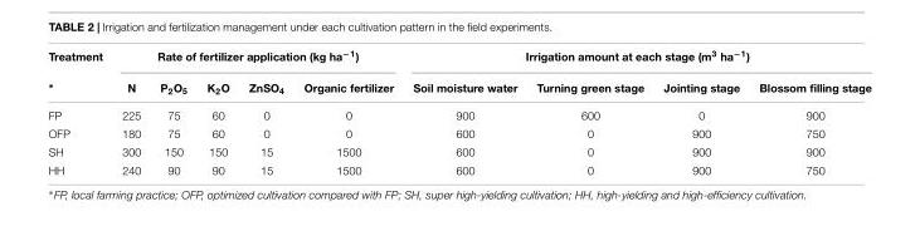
<table><thead><tr><td rowspan="2">Treatment ∗</td><td colspan="5">Rate of fertilizer application (kg ha<sup>−1</sup>)</td><td colspan="4">Irrigation amount at each stage (m<sup>3</sup> ha<sup>−1</sup>)</td></tr><tr><td>N</td><td>P<sub>2</sub>O<sub>5</sub></td><td>K<sub>2</sub>O</td><td>ZnSO<sub>4</sub></td><td>Organic fertilizer</td><td>Soil moisture water</td><td>Turning green stage</td><td>Jointing stage</td><td>Blossom filling stage</td></tr></thead><tbody><tr><td>FP</td><td>225</td><td>75</td><td>60</td><td>0</td><td>0</td><td>900</td><td>600</td><td>0</td><td>900</td></tr><tr><td>OFP</td><td>180</td><td>75</td><td>60</td><td>0</td><td>0</td><td>600</td><td>0</td><td>900</td><td>750</td></tr><tr><td>SH</td><td>300</td><td>150</td><td>150</td><td>15</td><td>1500</td><td>600</td><td>0</td><td>900</td><td>900</td></tr><tr><td>HH</td><td>240</td><td>90</td><td>90</td><td>15</td><td>1500</td><td>600</td><td>0</td><td>900</td><td>750</td></tr></tbody></table>